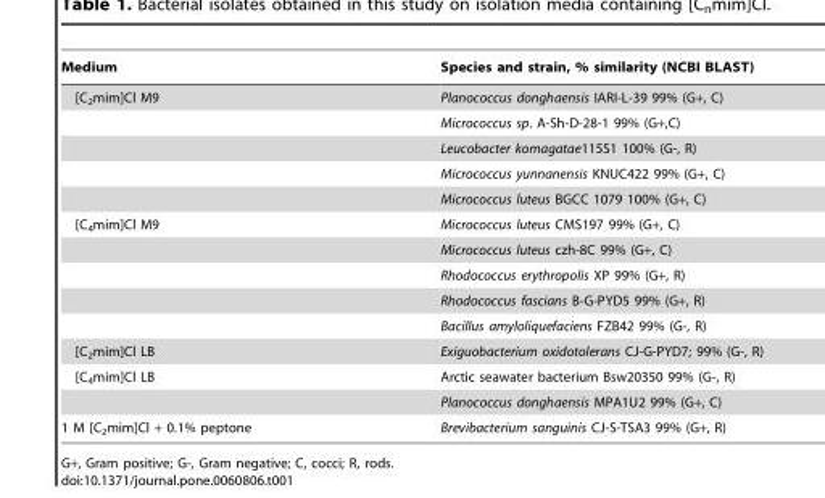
<table><thead><tr><td>Medium</td><td>Species and strain, % similarity (NCBI BLAST)</td></tr></thead><tbody><tr><td rowspan="5">[C<sub>2</sub>mim]Cl M9</td><td>Planococcus donghaensis IARI-L-39 99% (G+, C)</td></tr><tr><td>Micrococcus sp. A-Sh-D-28-1 99% (G+,C)</td></tr><tr><td>Leucobacter komagatae115S1 100% (G-, R)</td></tr><tr><td>Micrococcus yunnanensis KNUC422 99% (G+, C)</td></tr><tr><td>Micrococcus luteus BGCC 1079 100% (G+, C)</td></tr><tr><td rowspan="5">[C<sub>4</sub>mim]Cl M9</td><td>Micrococcus luteus CMS197 99% (G+, C)</td></tr><tr><td>Micrococcus luteus czh-8C 99% (G+, C)</td></tr><tr><td>Rhodococcus erythropolis XP 99% (G+, R)</td></tr><tr><td>Rhodococcus fascians B-G-PYD5 99% (G+, R)</td></tr><tr><td>Bacillus amyloliquefaciens FZB42 99% (G-, R)</td></tr><tr><td>[C<sub>2</sub>mim]Cl LB</td><td>Exiguobacterium oxidotolerans CJ-G-PYD7; 99% (G-, R)</td></tr><tr><td rowspan="2">[C<sub>4</sub>mim]Cl LB</td><td>Arctic seawater bacterium Bsw20350 99% (G-, R)</td></tr><tr><td>Planococcus donghaensis MPA1U2 99% (G+, C)</td></tr><tr><td>1 M [C<sub>2</sub>mim]Cl + 0.1% peptone</td><td>Brevibacterium sanguinis CJ-S-TSA3 99% (G+, R)</td></tr></tbody></table>